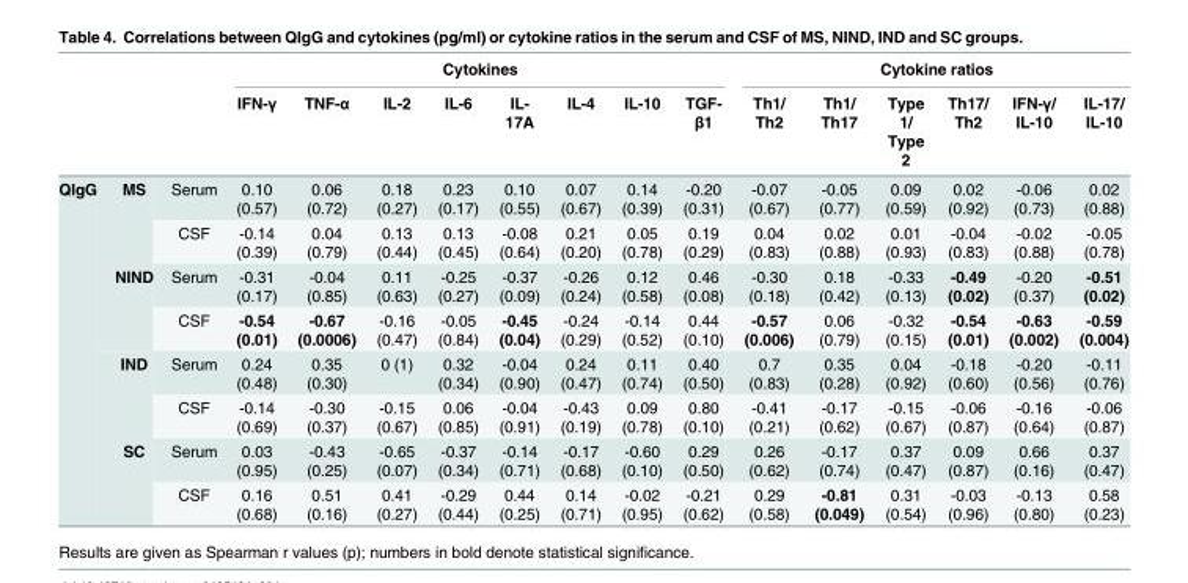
<table><thead><tr><td rowspan="2"></td><td rowspan="2"></td><td rowspan="2"></td><td colspan="8">Cytokines</td><td colspan="6">Cytokine ratios</td></tr><tr><td>IFN-γ</td><td>TNF-α</td><td>IL-2</td><td>IL-6</td><td>IL- 17A</td><td>IL-4</td><td>IL-10</td><td>TGF- β1</td><td>Th1/ Th2</td><td>Th1/ Th17</td><td>Type 1/ Type 2</td><td>Th17/ Th2</td><td>IFN-γ/ IL-10</td><td>IL-17/ IL-10</td></tr></thead><tbody><tr><td rowspan="8">QIgG</td><td rowspan="2">MS</td><td>Serum</td><td>0.10 (0.57)</td><td>0.06 (0.72)</td><td>0.18 (0.27)</td><td>0.23 (0.17)</td><td>0.10 (0.55)</td><td>0.07 (0.67)</td><td>0.14 (0.39)</td><td>-0.20 (0.31)</td><td>-0.07 (0.67)</td><td>-0.05 (0.77)</td><td>0.09 (0.59)</td><td>0.02 (0.92)</td><td>-0.06 (0.73)</td><td>0.02 (0.88)</td></tr><tr><td>CSF</td><td>-0.14 (0.39)</td><td>0.04 (0.79)</td><td>0.13 (0.44)</td><td>0.13 (0.45)</td><td>-0.08 (0.64)</td><td>0.21 (0.20)</td><td>0.05 (0.78)</td><td>0.19 (0.29)</td><td>0.04 (0.83)</td><td>0.02 (0.88)</td><td>0.01 (0.93)</td><td>-0.04 (0.83)</td><td>-0.02 (0.88)</td><td>-0.05 (0.78)</td></tr><tr><td rowspan="2">NIND</td><td>Serum</td><td>-0.31 (0.17)</td><td>-0.04 (0.85)</td><td>0.11 (0.63)</td><td>-0.25 (0.27)</td><td>-0.37 (0.09)</td><td>-0.26 (0.24)</td><td>0.12 (0.58)</td><td>0.46 (0.08)</td><td>-0.30 (0.18)</td><td>0.18 (0.42)</td><td>-0.33 (0.13)</td><td>-0.49 (0.02)</td><td>-0.20 (0.37)</td><td>-0.51 (0.02)</td></tr><tr><td>CSF</td><td>-0.54 (0.01)</td><td>-0.67 (0.0006)</td><td>-0.16 (0.47)</td><td>-0.05 (0.84)</td><td>-0.45 (0.04)</td><td>-0.24 (0.29)</td><td>-0.14 (0.52)</td><td>0.44 (0.10)</td><td>-0.57 (0.006)</td><td>0.06 (0.79)</td><td>-0.32 (0.15)</td><td>-0.54 (0.01)</td><td>-0.63 (0.002)</td><td>-0.59 (0.004)</td></tr><tr><td rowspan="2">IND</td><td>Serum</td><td>0.24 (0.48)</td><td>0.35 (0.30)</td><td>0 (1)</td><td>0.32 (0.34)</td><td>-0.04 (0.90)</td><td>0.24 (0.47)</td><td>0.11 (0.74)</td><td>0.40 (0.50)</td><td>0.7 (0.83)</td><td>0.35 (0.28)</td><td>0.04 (0.92)</td><td>-0.18 (0.60)</td><td>-0.20 (0.56)</td><td>-0.11 (0.76)</td></tr><tr><td>CSF</td><td>-0.14 (0.69)</td><td>-0.30 (0.37)</td><td>-0.15 (0.67)</td><td>0.06 (0.85)</td><td>-0.04 (0.91)</td><td>-0.43 (0.19)</td><td>0.09 (0.78)</td><td>0.80 (0.10)</td><td>-0.41 (0.21)</td><td>-0.17 (0.62)</td><td>-0.15 (0.67)</td><td>-0.06 (0.87)</td><td>-0.16 (0.64)</td><td>-0.06 (0.87)</td></tr><tr><td rowspan="2">SC</td><td>Serum</td><td>0.03 (0.95)</td><td>-0.43 (0.25)</td><td>-0.65 (0.07)</td><td>-0.37 (0.34)</td><td>-0.14 (0.71)</td><td>-0.17 (0.68)</td><td>-0.60 (0.10)</td><td>0.29 (0.50)</td><td>0.26 (0.62)</td><td>-0.17 (0.74)</td><td>0.37 (0.47)</td><td>0.09 (0.87)</td><td>0.66 (0.16)</td><td>0.37 (0.47)</td></tr><tr><td>CSF</td><td>0.16 (0.68)</td><td>0.51 (0.16)</td><td>0.41 (0.27)</td><td>-0.29 (0.44)</td><td>0.44 (0.25)</td><td>0.14 (0.71)</td><td>-0.02 (0.95)</td><td>-0.21 (0.62)</td><td>0.29 (0.58)</td><td>-0.81 (0.049)</td><td>0.31 (0.54)</td><td>-0.03 (0.96)</td><td>-0.13 (0.80)</td><td>0.58 (0.23)</td></tr></tbody></table>